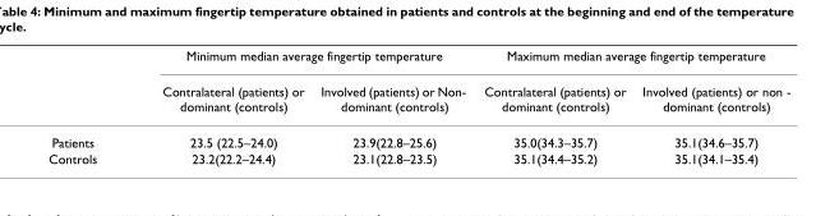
<table><thead><tr><td rowspan="2"></td><td colspan="2">Minimum median average fingertip temperature</td><td colspan="2">Maximum median average fingertip temperature</td></tr><tr><td>Contralateral (patients) or dominant (controls)</td><td>Involved (patients) or Non- dominant (controls)</td><td>Contralateral (patients) or dominant (controls)</td><td>Involved (patients) or non - dominant (controls)</td></tr></thead><tbody><tr><td>Patients</td><td>23.5 (22.5–24.0)</td><td>23.9(22.8–25.6)</td><td>35.0(34.3–35.7)</td><td>35.1(34.6–35.7)</td></tr><tr><td>Controls</td><td>23.2(22.2–24.4)</td><td>23.1(22.8–23.5)</td><td>35.1(34.4–35.2)</td><td>35.1(34.1–35.4)</td></tr></tbody></table>